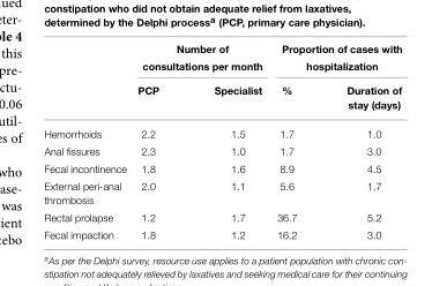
<table><thead><tr><td rowspan="2"></td><td colspan="2">Number of consultations per month</td><td colspan="2">Proportion of cases with hospitalization</td></tr><tr><td>PCP</td><td>Specialist</td><td>%</td><td>Duration of stay (days)</td></tr></thead><tbody><tr><td>Hemorrhoids</td><td>2.2</td><td>1.5</td><td>1.7</td><td>1.0</td></tr><tr><td>Anal fissures</td><td>2.3</td><td>1.0</td><td>1.7</td><td>3.0</td></tr><tr><td>Fecal incontinence</td><td>1.8</td><td>1.6</td><td>8.9</td><td>4.5</td></tr><tr><td>External peri-anal thrombosis</td><td>2.0</td><td>1.1</td><td>5.6</td><td>1.7</td></tr><tr><td>Rectal prolapse</td><td>1.2</td><td>1.7</td><td>36.7</td><td>5.2</td></tr><tr><td>Fecal impaction</td><td>1.8</td><td>1.2</td><td>16.2</td><td>3.0</td></tr></tbody></table>